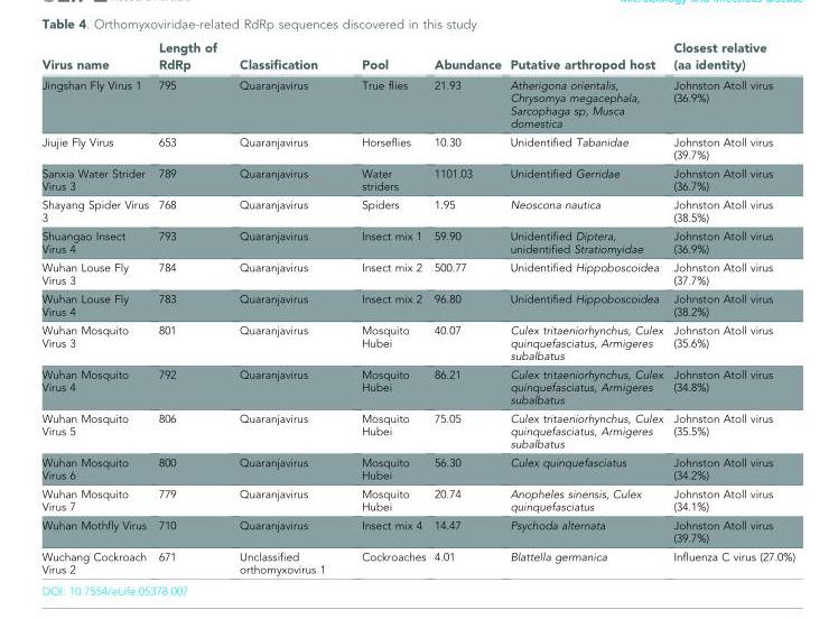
<table><thead><tr><td>Virus name</td><td>Length of RdRp</td><td>Classification</td><td>Pool</td><td>Abundance</td><td>Putative arthropod host</td><td>Closest relative (aa identity)</td></tr></thead><tbody><tr><td>Jingshan Fly Virus 1</td><td>795</td><td>Quaranjavirus</td><td>True flies</td><td>21.93</td><td>Atherigona orientalis, Chrysomya megacephala, Sarcophaga sp, Musca domestica</td><td>Johnston Atoll virus (36.9%)</td></tr><tr><td>Jiujie Fly Virus</td><td>653</td><td>Quaranjavirus</td><td>Horseflies</td><td>10.30</td><td>Unidentified Tabanidae</td><td>Johnston Atoll virus (39.7%)</td></tr><tr><td>Sanxia Water Strider Virus 3</td><td>789</td><td>Quaranjavirus</td><td>Water striders</td><td>1101.03</td><td>Unidentified Gerridae</td><td>Johnston Atoll virus (36.7%)</td></tr><tr><td>Shayang Spider Virus 3</td><td>768</td><td>Quaranjavirus</td><td>Spiders</td><td>1.95</td><td>Neoscona nautica</td><td>Johnston Atoll virus (38.5%)</td></tr><tr><td>Shuangao Insect Virus 4</td><td>793</td><td>Quaranjavirus</td><td>Insect mix 1</td><td>59.90</td><td>Unidentified Diptera, unidentified Stratiomyidae</td><td>Johnston Atoll virus (36.9%)</td></tr><tr><td>Wuhan Louse Fly Virus 3</td><td>784</td><td>Quaranjavirus</td><td>Insect mix 2</td><td>500.77</td><td>Unidentified Hippoboscoidea</td><td>Johnston Atoll virus (37.7%)</td></tr><tr><td>Wuhan Louse Fly Virus 4</td><td>783</td><td>Quaranjavirus</td><td>Insect mix 2</td><td>96.80</td><td>Unidentified Hippoboscoidea</td><td>Johnston Atoll virus (38.2%)</td></tr><tr><td>Wuhan Mosquito Virus 3</td><td>801</td><td>Quaranjavirus</td><td>Mosquito Hubei</td><td>40.07</td><td>Culex tritaeniorhynchus, Culex quinquefasciatus, Armigeres subalbatus</td><td>Johnston Atoll virus (35.6%)</td></tr><tr><td>Wuhan Mosquito Virus 4</td><td>792</td><td>Quaranjavirus</td><td>Mosquito Hubei</td><td>86.21</td><td>Culex tritaeniorhynchus, Culex quinquefasciatus, Armigeres subalbatus</td><td>Johnston Atoll virus (34.8%)</td></tr><tr><td>Wuhan Mosquito Virus 5</td><td>806</td><td>Quaranjavirus</td><td>Mosquito Hubei</td><td>75.05</td><td>Culex tritaeniorhynchus, Culex quinquefasciatus, Armigeres subalbatus</td><td>Johnston Atoll virus (35.5%)</td></tr><tr><td>Wuhan Mosquito Virus 6</td><td>800</td><td>Quaranjavirus</td><td>Mosquito Hubei</td><td>56.30</td><td>Culex quinquefasciatus</td><td>Johnston Atoll virus (34.2%)</td></tr><tr><td>Wuhan Mosquito Virus 7</td><td>779</td><td>Quaranjavirus</td><td>Mosquito Hubei</td><td>20.74</td><td>Anopheles sinensis, Culex quinquefasciatus</td><td>Johnston Atoll virus (34.1%)</td></tr><tr><td>Wuhan Mothfly Virus</td><td>710</td><td>Quaranjavirus</td><td>Insect mix 4</td><td>14.47</td><td>Psychoda alternata</td><td>Johnston Atoll virus (39.7%)</td></tr><tr><td>Wuchang Cockroach Virus 2</td><td>671</td><td>Unclassified orthomyxovirus 1</td><td>Cockroaches</td><td>4.01</td><td>Blattella germanica</td><td>Influenza C virus (27.0%)</td></tr></tbody></table>